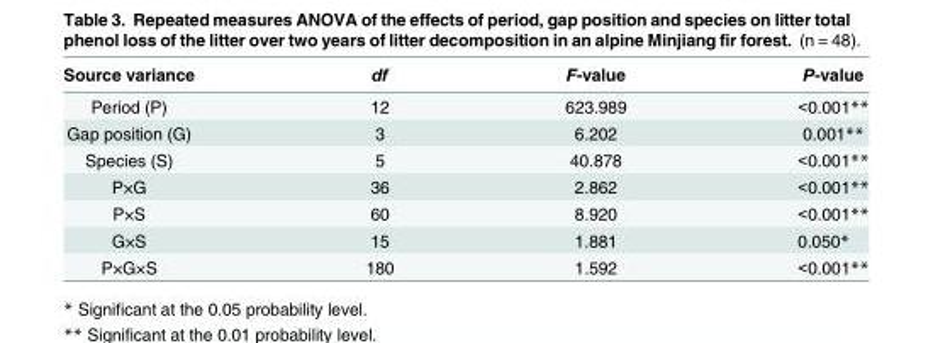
<table><thead><tr><td>Source variance</td><td>df</td><td>F-value</td><td>P-value</td></tr></thead><tbody><tr><td>Period (P)</td><td>12</td><td>623.989</td><td>&lt;0.001**</td></tr><tr><td>Gap position (G)</td><td>3</td><td>6.202</td><td>0.001**</td></tr><tr><td>Species (S)</td><td>5</td><td>40.878</td><td>&lt;0.001**</td></tr><tr><td>P×G</td><td>36</td><td>2.862</td><td>&lt;0.001**</td></tr><tr><td>P×S</td><td>60</td><td>8.920</td><td>&lt;0.001**</td></tr><tr><td>G×S</td><td>15</td><td>1.881</td><td>0.050*</td></tr><tr><td>P×G×S</td><td>180</td><td>1.592</td><td>&lt;0.001**</td></tr></tbody></table>